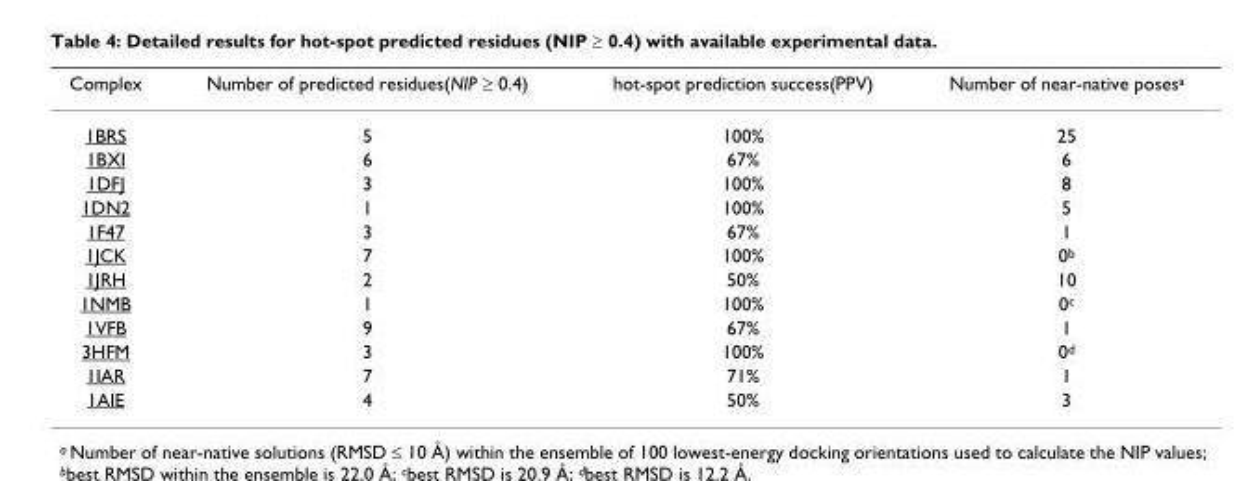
<table><thead><tr><td>Complex</td><td>Number of predicted residues(NIP ≥ 0.4)</td><td>hot-spot prediction success(PPV)</td><td>Number of near-native poses<sup>a</sup></td></tr></thead><tbody><tr><td>1BRS</td><td>5</td><td>100%</td><td>25</td></tr><tr><td>1BXI</td><td>6</td><td>67%</td><td>6</td></tr><tr><td>1DFJ</td><td>3</td><td>100%</td><td>8</td></tr><tr><td>1DN2</td><td>1</td><td>100%</td><td>5</td></tr><tr><td>1F47</td><td>3</td><td>67%</td><td>1</td></tr><tr><td>1JCK</td><td>7</td><td>100%</td><td>0<sup>b</sup></td></tr><tr><td>1JRH</td><td>2</td><td>50%</td><td>10</td></tr><tr><td>1NMB</td><td>1</td><td>100%</td><td>0<sup>c</sup></td></tr><tr><td>1VFB</td><td>9</td><td>67%</td><td>1</td></tr><tr><td>3HFM</td><td>3</td><td>100%</td><td>0<sup>d</sup></td></tr><tr><td>1IAR</td><td>7</td><td>71%</td><td>1</td></tr><tr><td>1AIE</td><td>4</td><td>50%</td><td>3</td></tr></tbody></table>